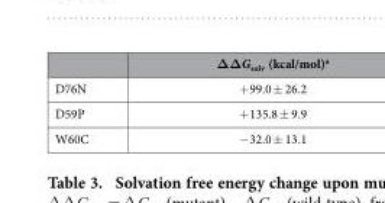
<table><thead><tr><td></td><td>ΔΔG<sub>solv</sub> (kcal/mol)<sup>a</sup></td></tr></thead><tbody><tr><td>D76N</td><td>+ 99.0 ± 26.2</td></tr><tr><td>D59P</td><td>+ 135.8 ± 9.9</td></tr><tr><td>W60C</td><td>− 32.0 ± 13.1</td></tr></tbody></table>